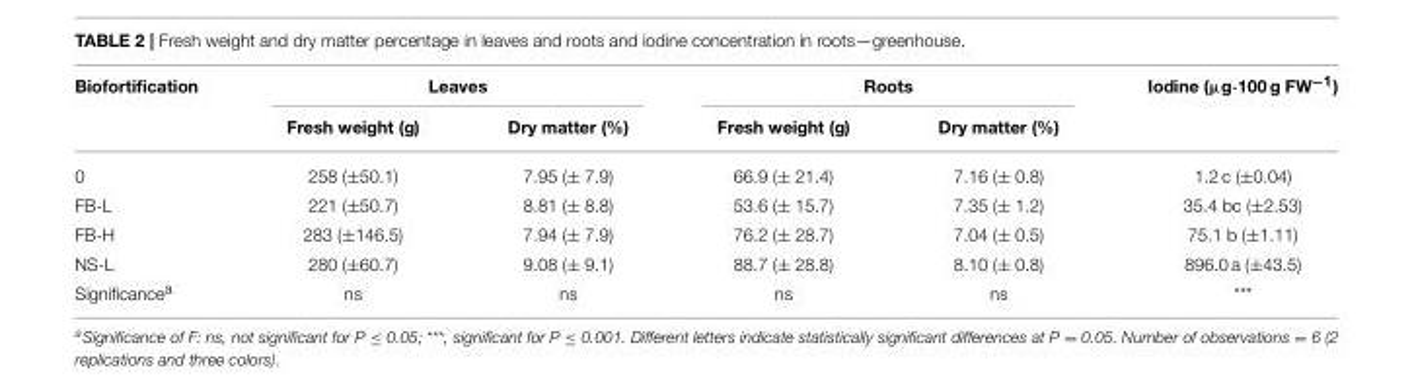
<table><thead><tr><td rowspan="2">Biofortification</td><td colspan="2">Leaves</td><td colspan="2">Roots</td><td rowspan="2">Iodine (µg·100 g FW<sup>−1</sup>)</td></tr><tr><td>Fresh weight (g)</td><td>Dry matter (%)</td><td>Fresh weight (g)</td><td>Dry matter (%)</td></tr></thead><tbody><tr><td>0</td><td>258 (±50.1)</td><td>7.95 (± 7.9)</td><td>66.9 (± 21.4)</td><td>7.16 (± 0.8)</td><td>1.2 c (±0.04)</td></tr><tr><td>FB-L</td><td>221 (±50.7)</td><td>8.81 (± 8.8)</td><td>53.6 (± 15.7)</td><td>7.35 (± 1.2)</td><td>35.4 bc (±2.53)</td></tr><tr><td>FB-H</td><td>283 (±146.5)</td><td>7.94 (± 7.9)</td><td>76.2 (± 28.7)</td><td>7.04 (± 0.5)</td><td>75.1 b (±1.11)</td></tr><tr><td>NS-L</td><td>280 (±60.7)</td><td>9.08 (± 9.1)</td><td>88.7 (± 28.8)</td><td>8.10 (± 0.8)</td><td>896.0 a (±43.5)</td></tr><tr><td>Significance<sup>a</sup></td><td>ns</td><td>ns</td><td>ns</td><td>ns</td><td>***</td></tr></tbody></table>